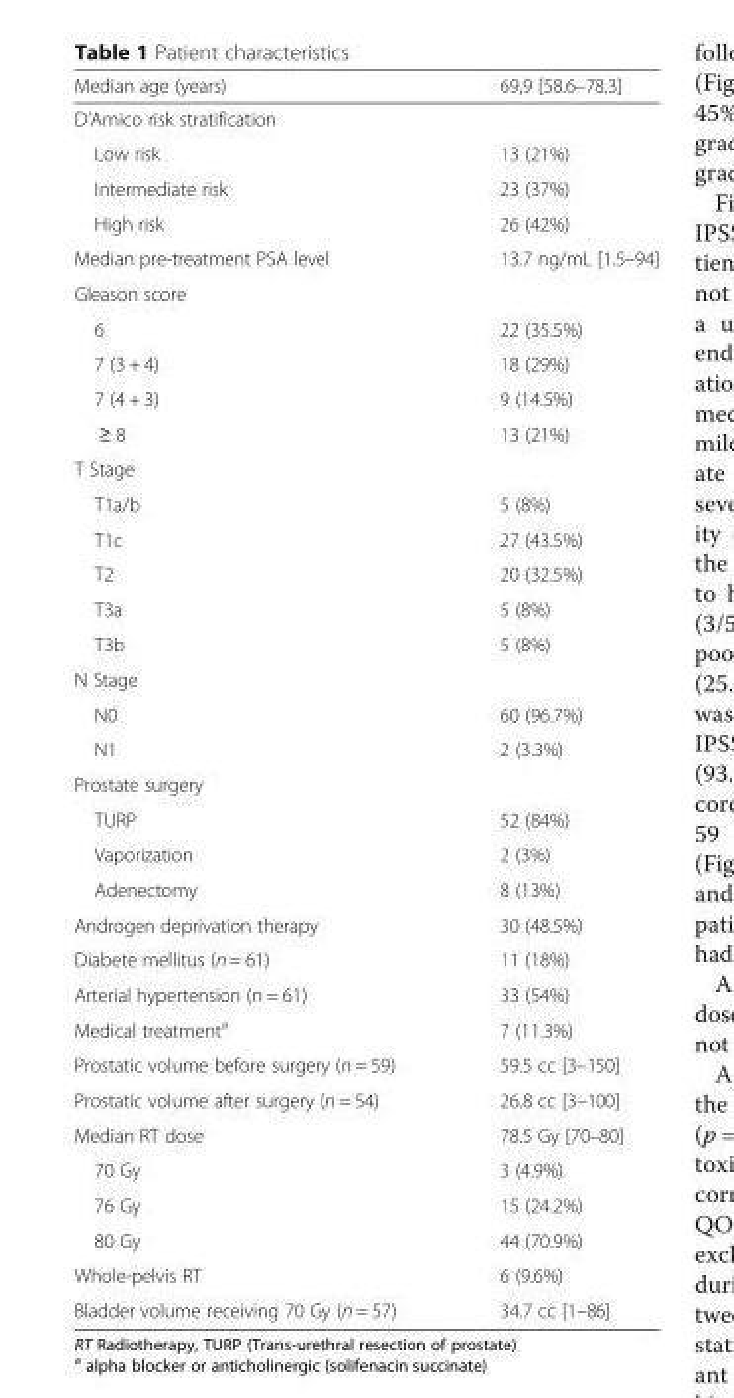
<table><thead><tr><td>Median age (years)</td><td>69,9 [58.6–78.3]</td></tr></thead><tbody><tr><td colspan="2">D’Amico risk stratification</td></tr><tr><td>Low risk</td><td>13 (21%)</td></tr><tr><td>Intermediate risk</td><td>23 (37%)</td></tr><tr><td>High risk</td><td>26 (42%)</td></tr><tr><td>Median pre-treatment PSA level</td><td>13.7 ng/mL [1.5–94]</td></tr><tr><td colspan="2">Gleason score</td></tr><tr><td>6</td><td>22 (35.5%)</td></tr><tr><td>7 (3 + 4)</td><td>18 (29%)</td></tr><tr><td>7 (4 + 3)</td><td>9 (14.5%)</td></tr><tr><td>≥ 8</td><td>13 (21%)</td></tr><tr><td colspan="2">T Stage</td></tr><tr><td>T1a/b</td><td>5 (8%)</td></tr><tr><td>T1c</td><td>27 (43.5%)</td></tr><tr><td>T2</td><td>20 (32.5%)</td></tr><tr><td>T3a</td><td>5 (8%)</td></tr><tr><td>T3b</td><td>5 (8%)</td></tr><tr><td colspan="2">N Stage</td></tr><tr><td>N0</td><td>60 (96.7%)</td></tr><tr><td>N1</td><td>2 (3.3%)</td></tr><tr><td colspan="2">Prostate surgery</td></tr><tr><td>TURP</td><td>52 (84%)</td></tr><tr><td>Vaporization</td><td>2 (3%)</td></tr><tr><td>Adenectomy</td><td>8 (13%)</td></tr><tr><td>Androgen deprivation therapy</td><td>30 (48.5%)</td></tr><tr><td>Diabete mellitus (n = 61)</td><td>11 (18%)</td></tr><tr><td>Arterial hypertension (n = 61)</td><td>33 (54%)</td></tr><tr><td>Medical treatment<sup>a</sup></td><td>7 (11.3%)</td></tr><tr><td>Prostatic volume before surgery (n = 59)</td><td>59.5 cc [3–150]</td></tr><tr><td>Prostatic volume after surgery (n = 54)</td><td>26.8 cc [3–100]</td></tr><tr><td>Median RT dose</td><td>78.5 Gy [70–80]</td></tr><tr><td>70 Gy</td><td>3 (4.9%)</td></tr><tr><td>76 Gy</td><td>15 (24.2%)</td></tr><tr><td>80 Gy</td><td>44 (70.9%)</td></tr><tr><td>Whole-pelvis RT</td><td>6 (9.6%)</td></tr><tr><td>Bladder volume receiving 70 Gy (n = 57)</td><td>34.7 cc [1–86]</td></tr></tbody></table>